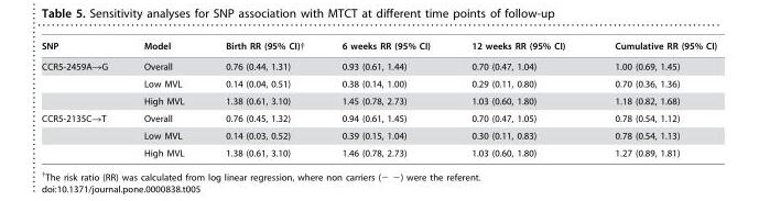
<table><thead><tr><td>SNP</td><td>Model</td><td>Birth RR (95% CI)†</td><td>6 weeks RR (95% CI)</td><td>12 weeks RR (95% CI)</td><td>Cumulative RR (95% CI)</td></tr></thead><tbody><tr><td rowspan="3">CCR5-2459A→G</td><td>Overall</td><td>0.76 (0.44, 1.31)</td><td>0.93 (0.61, 1.44)</td><td>0.70 (0.47, 1.04)</td><td>1.00 (0.69, 1.45)</td></tr><tr><td>Low MVL</td><td>0.14 (0.04, 0.51)</td><td>0.38 (0.14, 1.00)</td><td>0.29 (0.11, 0.80)</td><td>0.70 (0.36, 1.36)</td></tr><tr><td>High MVL</td><td>1.38 (0.61, 3.10)</td><td>1.45 (0.78, 2.73)</td><td>1.03 (0.60, 1.80)</td><td>1.18 (0.82, 1.68)</td></tr><tr><td rowspan="3">CCR5-2135C→T</td><td>Overall</td><td>0.76 (0.45, 1.32)</td><td>0.94 (0.61, 1.45)</td><td>0.70 (0.47, 1.05)</td><td>0.78 (0.54, 1.12)</td></tr><tr><td>Low MVL</td><td>0.14 (0.03, 0.52)</td><td>0.39 (0.15, 1.04)</td><td>0.30 (0.11, 0.83)</td><td>0.78 (0.54, 1.13)</td></tr><tr><td>High MVL</td><td>1.38 (0.61, 3.10)</td><td>1.46 (0.78, 2.73)</td><td>1.03 (0.60, 1.80)</td><td>1.27 (0.89, 1.81)</td></tr></tbody></table>